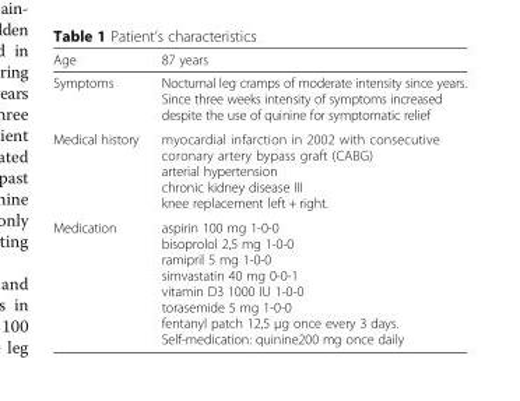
<table><thead><tr><td>Age</td><td>87 years</td></tr></thead><tbody><tr><td>Symptoms</td><td>Nocturnal leg cramps of moderate intensity since years. Since three weeks intensity of symptoms increased despite the use of quinine for symptomatic relief</td></tr><tr><td>Medical history</td><td>myocardial infarction in 2002 with consecutive coronary artery bypass graft (CABG) arterial hypertension chronic kidney disease III knee replacement left + right.</td></tr><tr><td>Medication</td><td>aspirin 100 mg 1-0-0 bisoprolol 2,5 mg 1-0-0 ramipril 5 mg 1-0-0 simvastatin 40 mg 0-0-1 vitamin D3 1000 IU 1-0-0 torasemide 5 mg 1-0-0 fentanyl patch 12,5 μg once every 3 days. Self-medication: quinine200 mg once daily</td></tr></tbody></table>